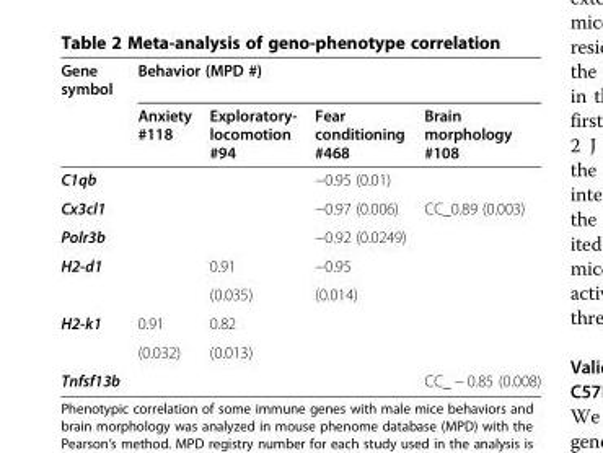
<table><thead><tr><td rowspan="2">Gene symbol</td><td colspan="4">Behavior (MPD #)</td></tr><tr><td>Anxiety #118</td><td>Exploratory- locomotion #94</td><td>Fear conditioning #468</td><td>Brain morphology #108</td></tr></thead><tbody><tr><td>C1qb</td><td></td><td></td><td>−0.95 (0.01)</td><td></td></tr><tr><td>Cx3cl1</td><td></td><td></td><td>−0.97 (0.006)</td><td>CC_0.89 (0.003)</td></tr><tr><td>Polr3b</td><td></td><td></td><td>−0.92 (0.0249)</td><td></td></tr><tr><td rowspan="2">H2-d1</td><td></td><td>0.91</td><td>−0.95</td><td rowspan="4"></td></tr><tr><td></td><td>(0.035)</td><td>(0.014)</td></tr><tr><td rowspan="2">H2-k1</td><td>0.91</td><td>0.82</td><td></td></tr><tr><td>(0.032)</td><td>(0.013)</td><td></td></tr><tr><td>Tnfsf13b</td><td></td><td></td><td></td><td>CC_ − 0.85 (0.008)</td></tr></tbody></table>